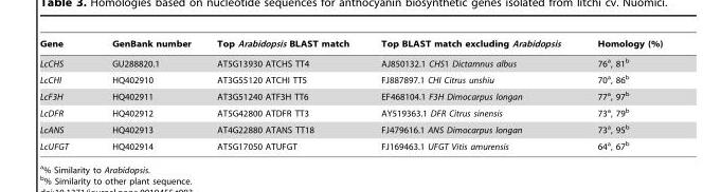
<table><thead><tr><td>Gene</td><td>GenBank number</td><td>Top Arabidopsis BLAST match</td><td>Top BLAST match excluding Arabidopsis</td><td>Homology (%)</td></tr></thead><tbody><tr><td>LcCHS</td><td>GU288820.1</td><td>AT5G13930 ATCHS TT4</td><td>AJ850132.1 CHS1 Dictamnus albus</td><td>76<sup>a</sup>, 81<sup>b</sup></td></tr><tr><td>LcCHI</td><td>HQ402910</td><td>AT3G55120 ATCHI TT5</td><td>FJ887897.1 CHI Citrus unshiu</td><td>70<sup>a</sup>, 86<sup>b</sup></td></tr><tr><td>LcF3H</td><td>HQ402911</td><td>AT3G51240 ATF3H TT6</td><td>EF468104.1 F3H Dimocarpus longan</td><td>77<sup>a</sup>, 97<sup>b</sup></td></tr><tr><td>LcDFR</td><td>HQ402912</td><td>AT5G42800 ATDFR TT3</td><td>AY519363.1 DFR Citrus sinensis</td><td>73<sup>a</sup>, 79<sup>b</sup></td></tr><tr><td>LcANS</td><td>HQ402913</td><td>AT4G22880 ATANS TT18</td><td>FJ479616.1 ANS Dimocarpus longan</td><td>73<sup>a</sup>, 95<sup>b</sup></td></tr><tr><td>LcUFGT</td><td>HQ402914</td><td>AT5G17050 ATUFGT</td><td>FJ169463.1 UFGT Vitis amurensis</td><td>64<sup>a</sup>, 67<sup>b</sup></td></tr></tbody></table>